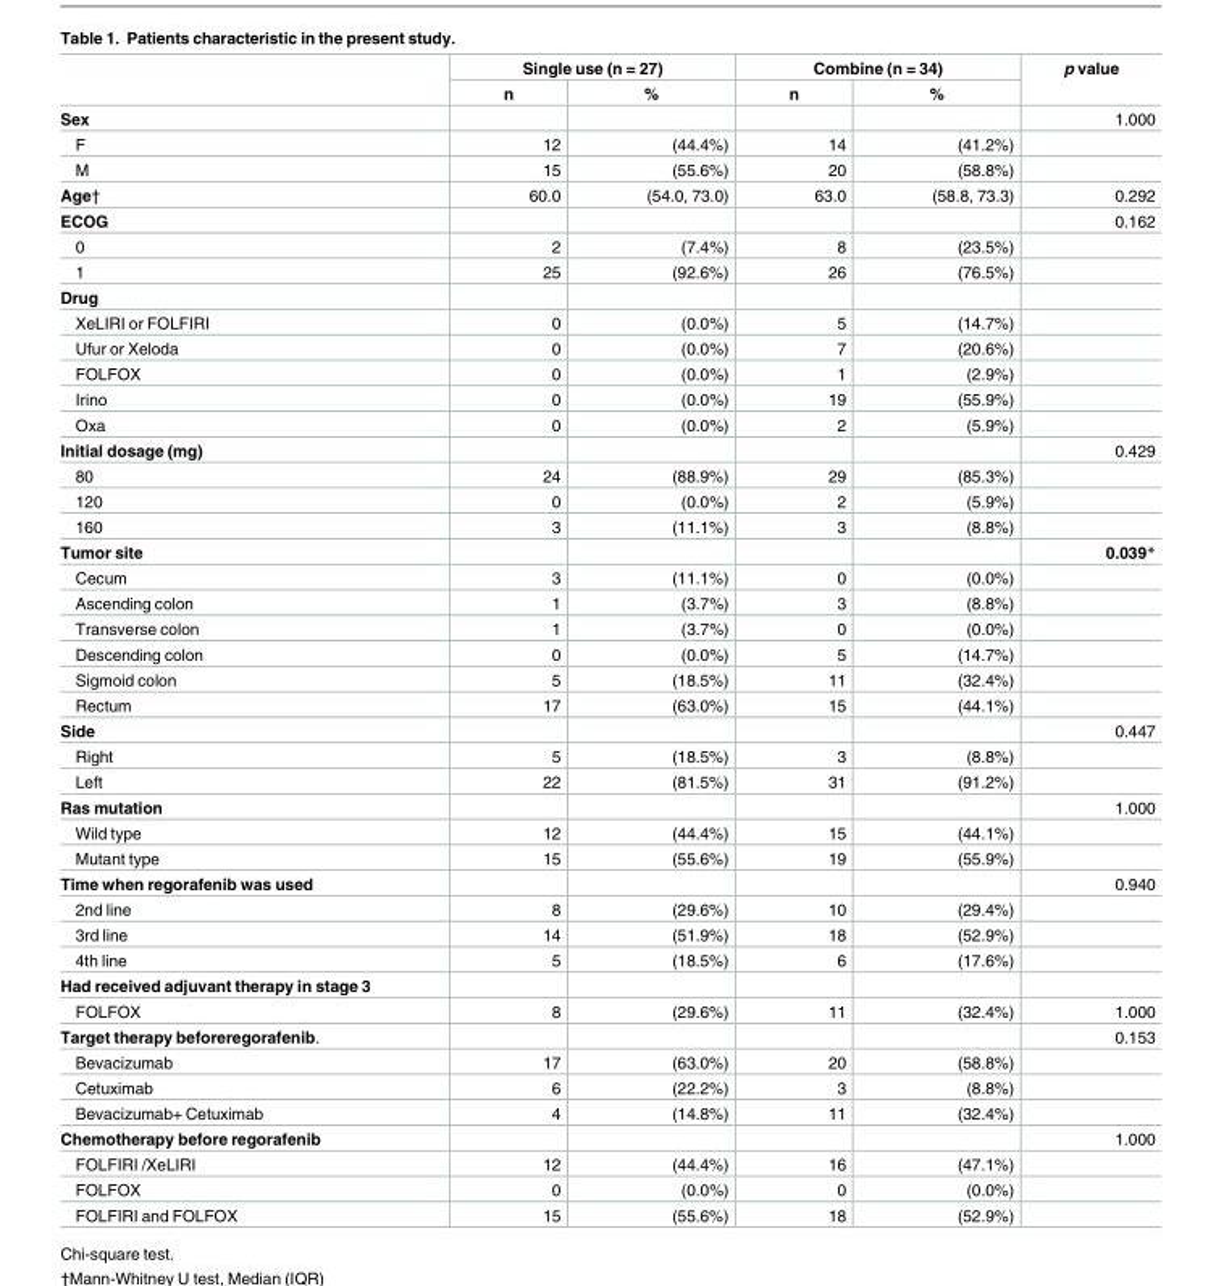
<table><thead><tr><td rowspan="2"></td><td colspan="2">Single use (n = 27)</td><td colspan="2">Combine (n = 34)</td><td rowspan="2">p value</td></tr><tr><td>n</td><td>%</td><td>n</td><td>%</td></tr></thead><tbody><tr><td>Sex</td><td></td><td></td><td></td><td></td><td>1.000</td></tr><tr><td>F</td><td>12</td><td>(44.4%)</td><td>14</td><td>(41.2%)</td><td></td></tr><tr><td>M</td><td>15</td><td>(55.6%)</td><td>20</td><td>(58.8%)</td><td></td></tr><tr><td>Age†</td><td>60.0</td><td>(54.0, 73.0)</td><td>63.0</td><td>(58.8, 73.3)</td><td>0.292</td></tr><tr><td>ECOG</td><td></td><td></td><td></td><td></td><td>0.162</td></tr><tr><td>0</td><td>2</td><td>(7.4%)</td><td>8</td><td>(23.5%)</td><td></td></tr><tr><td>1</td><td>25</td><td>(92.6%)</td><td>26</td><td>(76.5%)</td><td></td></tr><tr><td colspan="6">Drug</td></tr><tr><td>XeLIRI or FOLFIRI</td><td>0</td><td>(0.0%)</td><td>5</td><td>(14.7%)</td><td></td></tr><tr><td>Ufur or Xeloda</td><td>0</td><td>(0.0%)</td><td>7</td><td>(20.6%)</td><td></td></tr><tr><td>FOLFOX</td><td>0</td><td>(0.0%)</td><td>1</td><td>(2.9%)</td><td></td></tr><tr><td>Irino</td><td>0</td><td>(0.0%)</td><td>19</td><td>(55.9%)</td><td></td></tr><tr><td>Oxa</td><td>0</td><td>(0.0%)</td><td>2</td><td>(5.9%)</td><td></td></tr><tr><td>Initial dosage (mg)</td><td></td><td></td><td></td><td></td><td>0.429</td></tr><tr><td>80</td><td>24</td><td>(88.9%)</td><td>29</td><td>(85.3%)</td><td></td></tr><tr><td>120</td><td>0</td><td>(0.0%)</td><td>2</td><td>(5.9%)</td><td></td></tr><tr><td>160</td><td>3</td><td>(11.1%)</td><td>3</td><td>(8.8%)</td><td></td></tr><tr><td>Tumor site</td><td></td><td></td><td></td><td></td><td>0.039*</td></tr><tr><td>Cecum</td><td>3</td><td>(11.1%)</td><td>0</td><td>(0.0%)</td><td></td></tr><tr><td>Ascending colon</td><td>1</td><td>(3.7%)</td><td>3</td><td>(8.8%)</td><td></td></tr><tr><td>Transverse colon</td><td>1</td><td>(3.7%)</td><td>0</td><td>(0.0%)</td><td></td></tr><tr><td>Descending colon</td><td>0</td><td>(0.0%)</td><td>5</td><td>(14.7%)</td><td></td></tr><tr><td>Sigmoid colon</td><td>5</td><td>(18.5%)</td><td>11</td><td>(32.4%)</td><td></td></tr><tr><td>Rectum</td><td>17</td><td>(63.0%)</td><td>15</td><td>(44.1%)</td><td></td></tr><tr><td>Side</td><td></td><td></td><td></td><td></td><td>0.447</td></tr><tr><td>Right</td><td>5</td><td>(18.5%)</td><td>3</td><td>(8.8%)</td><td></td></tr><tr><td>Left</td><td>22</td><td>(81.5%)</td><td>31</td><td>(91.2%)</td><td></td></tr><tr><td>Ras mutation</td><td></td><td></td><td></td><td></td><td>1.000</td></tr><tr><td>Wild type</td><td>12</td><td>(44.4%)</td><td>15</td><td>(44.1%)</td><td></td></tr><tr><td>Mutant type</td><td>15</td><td>(55.6%)</td><td>19</td><td>(55.9%)</td><td></td></tr><tr><td>Time when regorafenib was used</td><td></td><td></td><td></td><td></td><td>0.940</td></tr><tr><td>2nd line</td><td>8</td><td>(29.6%)</td><td>10</td><td>(29.4%)</td><td></td></tr><tr><td>3rd line</td><td>14</td><td>(51.9%)</td><td>18</td><td>(52.9%)</td><td></td></tr><tr><td>4th line</td><td>5</td><td>(18.5%)</td><td>6</td><td>(17.6%)</td><td></td></tr><tr><td colspan="6">Had received adjuvant therapy in stage 3</td></tr><tr><td>FOLFOX</td><td>8</td><td>(29.6%)</td><td>11</td><td>(32.4%)</td><td>1.000</td></tr><tr><td>Target therapy beforeregorafenib.</td><td></td><td></td><td></td><td></td><td>0.153</td></tr><tr><td>Bevacizumab</td><td>17</td><td>(63.0%)</td><td>20</td><td>(58.8%)</td><td></td></tr><tr><td>Cetuximab</td><td>6</td><td>(22.2%)</td><td>3</td><td>(8.8%)</td><td></td></tr><tr><td>Bevacizumab+ Cetuximab</td><td>4</td><td>(14.8%)</td><td>11</td><td>(32.4%)</td><td></td></tr><tr><td>Chemotherapy before regorafenib</td><td></td><td></td><td></td><td></td><td>1.000</td></tr><tr><td>FOLFIRI /XeLIRI</td><td>12</td><td>(44.4%)</td><td>16</td><td>(47.1%)</td><td></td></tr><tr><td>FOLFOX</td><td>0</td><td>(0.0%)</td><td>0</td><td>(0.0%)</td><td></td></tr><tr><td>FOLFIRI and FOLFOX</td><td>15</td><td>(55.6%)</td><td>18</td><td>(52.9%)</td><td></td></tr></tbody></table>